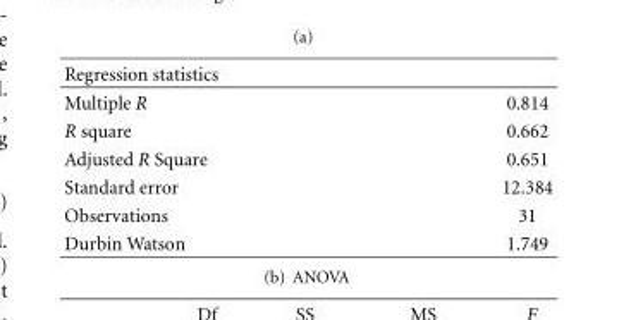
<table><thead><tr><td>Regression statistics</td><td></td></tr></thead><tbody><tr><td>Multiple R</td><td>0.814</td></tr><tr><td>R square</td><td>0.662</td></tr><tr><td>Adjusted R Square</td><td>0.651</td></tr><tr><td>Standard error</td><td>12.384</td></tr><tr><td>Observations</td><td>31</td></tr><tr><td>Durbin Watson</td><td>1.749</td></tr></tbody></table>